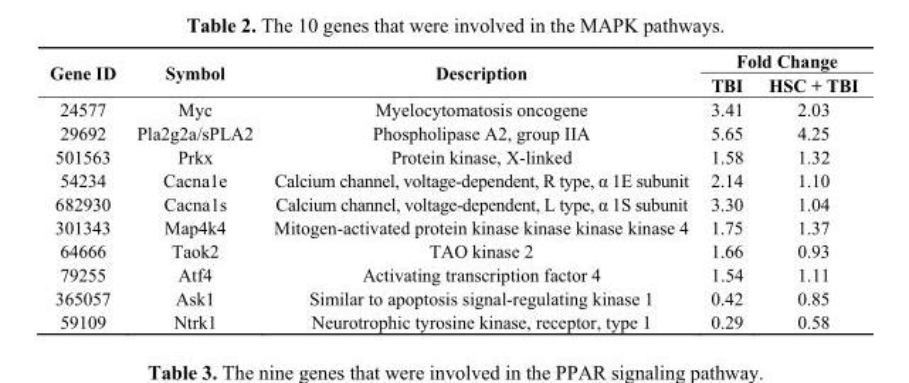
<table><thead><tr><td rowspan="2">Gene ID</td><td rowspan="2">Symbol</td><td rowspan="2">Description</td><td colspan="2">Fold Change</td></tr><tr><td>TBI</td><td>HSC + TBI</td></tr></thead><tbody><tr><td>24577</td><td>Myc</td><td>Myelocytomatosis oncogene</td><td>3.41</td><td>2.03</td></tr><tr><td>29692</td><td>Pla2g2a/sPLA2</td><td>Phospholipase A2, group IIA</td><td>5.65</td><td>4.25</td></tr><tr><td>501563</td><td>Prkx</td><td>Protein kinase, X-linked</td><td>1.58</td><td>1.32</td></tr><tr><td>54234</td><td>Cacna1e</td><td>Calcium channel, voltage-dependent, R type, α 1E subunit</td><td>2.14</td><td>1.10</td></tr><tr><td>682930</td><td>Cacna1s</td><td>Calcium channel, voltage-dependent, L type, α 1S subunit</td><td>3.30</td><td>1.04</td></tr><tr><td>301343</td><td>Map4k4</td><td>Mitogen-activated protein kinase kinase kinase kinase 4</td><td>1.75</td><td>1.37</td></tr><tr><td>64666</td><td>Taok2</td><td>TAO kinase 2</td><td>1.66</td><td>0.93</td></tr><tr><td>79255</td><td>Atf4</td><td>Activating transcription factor 4</td><td>1.54</td><td>1.11</td></tr><tr><td>365057</td><td>Ask1</td><td>Similar to apoptosis signal-regulating kinase 1</td><td>0.42</td><td>0.85</td></tr><tr><td>59109</td><td>Ntrk1</td><td>Neurotrophic tyrosine kinase, receptor, type 1</td><td>0.29</td><td>0.58</td></tr></tbody></table>